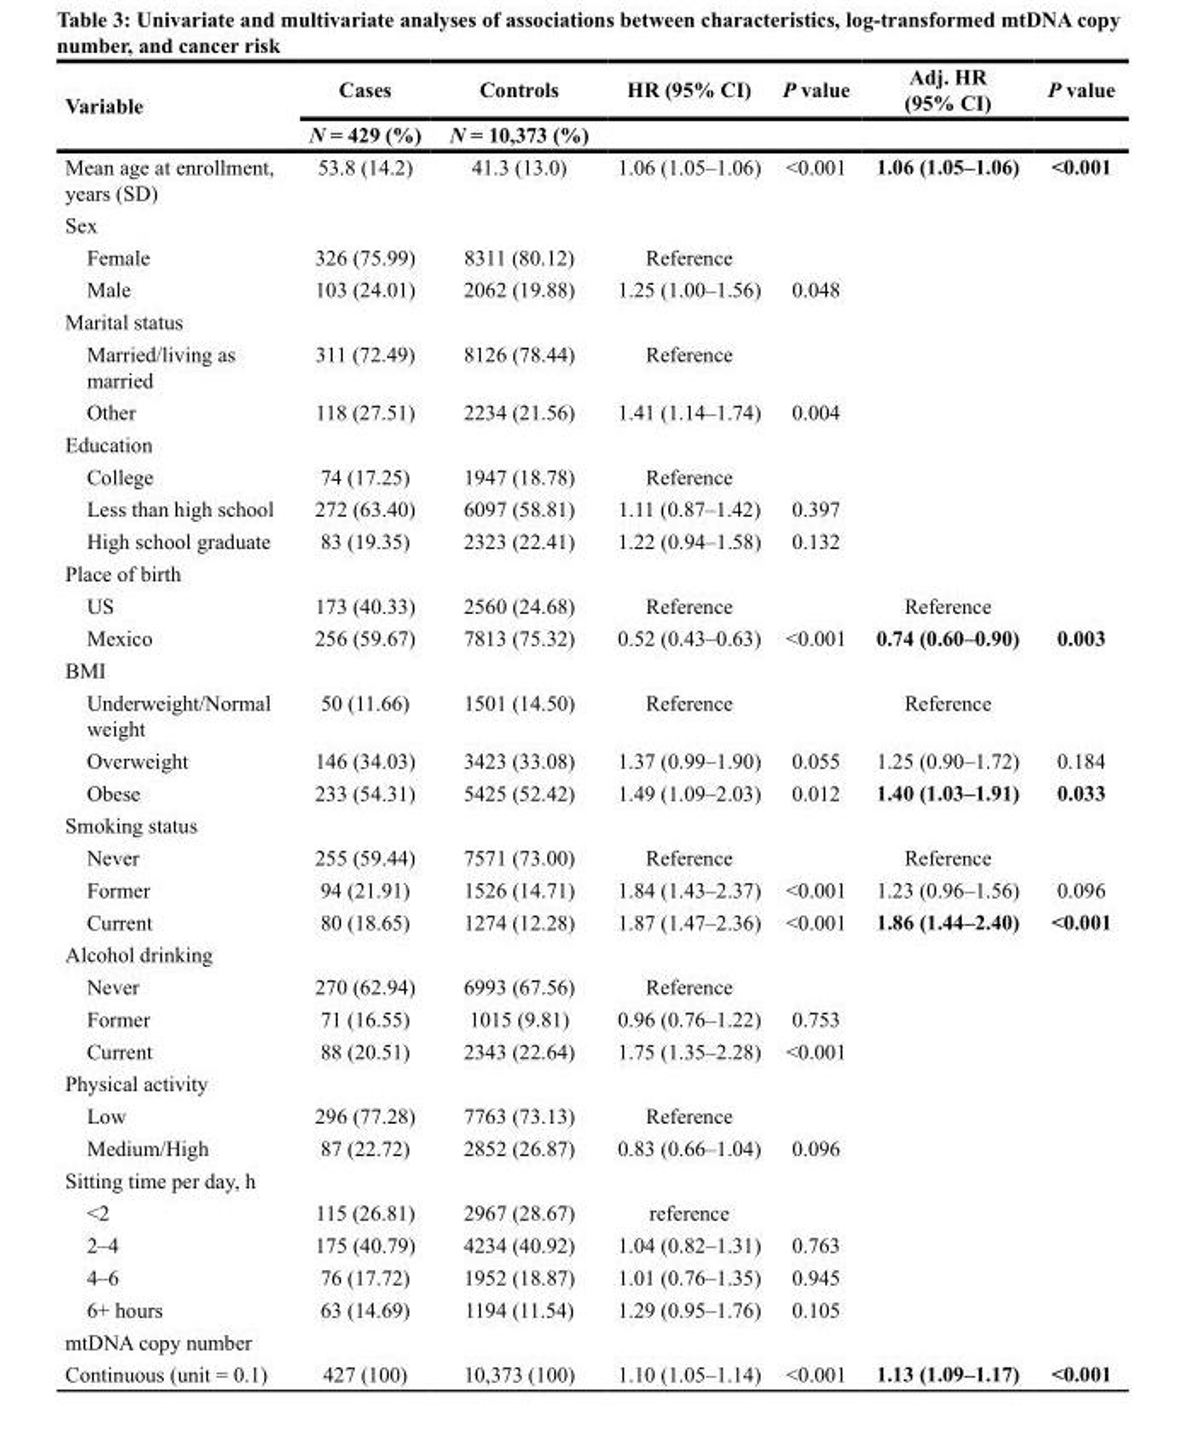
<table><thead><tr><td rowspan="2">Variable</td><td rowspan="2">Cases N = 429 (%)</td><td rowspan="2">Controls N = 10,373 (%)</td><td rowspan="2">HR (95% CI)</td><td rowspan="2">P value</td><td rowspan="2">Adj. HR (95% CI)</td><td rowspan="2">P value</td></tr><tr></tr></thead><tbody><tr><td>Mean age at enrollment, years (SD)</td><td>53.8 (14.2)</td><td>41.3 (13.0)</td><td>1.06 (1.05–1.06)</td><td>&lt;0.001</td><td>1.06 (1.05–1.06)</td><td>&lt;0.001</td></tr><tr><td colspan="7">Sex</td></tr><tr><td>Female</td><td>326 (75.99)</td><td>8311 (80.12)</td><td>Reference</td><td></td><td></td><td></td></tr><tr><td>Male</td><td>103 (24.01)</td><td>2062 (19.88)</td><td>1.25 (1.00–1.56)</td><td>0.048</td><td></td><td></td></tr><tr><td colspan="7">Marital status</td></tr><tr><td>Married/living as married</td><td>311 (72.49)</td><td>8126 (78.44)</td><td>Reference</td><td></td><td></td><td></td></tr><tr><td>Other</td><td>118 (27.51)</td><td>2234 (21.56)</td><td>1.41 (1.14–1.74)</td><td>0.004</td><td></td><td></td></tr><tr><td colspan="7">Education</td></tr><tr><td>College</td><td>74 (17.25)</td><td>1947 (18.78)</td><td>Reference</td><td></td><td></td><td></td></tr><tr><td>Less than high school</td><td>272 (63.40)</td><td>6097 (58.81)</td><td>1.11 (0.87–1.42)</td><td>0.397</td><td></td><td></td></tr><tr><td>High school graduate</td><td>83 (19.35)</td><td>2323 (22.41)</td><td>1.22 (0.94–1.58)</td><td>0.132</td><td></td><td></td></tr><tr><td colspan="7">Place of birth</td></tr><tr><td>US</td><td>173 (40.33)</td><td>2560 (24.68)</td><td>Reference</td><td></td><td>Reference</td><td></td></tr><tr><td>Mexico</td><td>256 (59.67)</td><td>7813 (75.32)</td><td>0.52 (0.43–0.63)</td><td>&lt;0.001</td><td>0.74 (0.60–0.90)</td><td>0.003</td></tr><tr><td colspan="7">BMI</td></tr><tr><td>Underweight/Normal weight</td><td>50 (11.66)</td><td>1501 (14.50)</td><td>Reference</td><td></td><td>Reference</td><td></td></tr><tr><td>Overweight</td><td>146 (34.03)</td><td>3423 (33.08)</td><td>1.37 (0.99–1.90)</td><td>0.055</td><td>1.25 (0.90–1.72)</td><td>0.184</td></tr><tr><td>Obese</td><td>233 (54.31)</td><td>5425 (52.42)</td><td>1.49 (1.09–2.03)</td><td>0.012</td><td>1.40 (1.03–1.91)</td><td>0.033</td></tr><tr><td colspan="7">Smoking status</td></tr><tr><td>Never</td><td>255 (59.44)</td><td>7571 (73.00)</td><td>Reference</td><td></td><td>Reference</td><td></td></tr><tr><td>Former</td><td>94 (21.91)</td><td>1526 (14.71)</td><td>1.84 (1.43–2.37)</td><td>&lt;0.001</td><td>1.23 (0.96–1.56)</td><td>0.096</td></tr><tr><td>Current</td><td>80 (18.65)</td><td>1274 (12.28)</td><td>1.87 (1.47–2.36)</td><td>&lt;0.001</td><td>1.86 (1.44–2.40)</td><td>&lt;0.001</td></tr><tr><td colspan="7">Alcohol drinking</td></tr><tr><td>Never</td><td>270 (62.94)</td><td>6993 (67.56)</td><td>Reference</td><td></td><td></td><td></td></tr><tr><td>Former</td><td>71 (16.55)</td><td>1015 (9.81)</td><td>0.96 (0.76–1.22)</td><td>0.753</td><td></td><td></td></tr><tr><td>Current</td><td>88 (20.51)</td><td>2343 (22.64)</td><td>1.75 (1.35–2.28)</td><td>&lt;0.001</td><td></td><td></td></tr><tr><td colspan="7">Physical activity</td></tr><tr><td>Low</td><td>296 (77.28)</td><td>7763 (73.13)</td><td>Reference</td><td></td><td></td><td></td></tr><tr><td>Medium/High</td><td>87 (22.72)</td><td>2852 (26.87)</td><td>0.83 (0.66–1.04)</td><td>0.096</td><td></td><td></td></tr><tr><td colspan="7">Sitting time per day, h</td></tr><tr><td>&lt;2</td><td>115 (26.81)</td><td>2967 (28.67)</td><td>reference</td><td></td><td></td><td></td></tr><tr><td>2–4</td><td>175 (40.79)</td><td>4234 (40.92)</td><td>1.04 (0.82–1.31)</td><td>0.763</td><td></td><td></td></tr><tr><td>4–6</td><td>76 (17.72)</td><td>1952 (18.87)</td><td>1.01 (0.76–1.35)</td><td>0.945</td><td></td><td></td></tr><tr><td>6+ hours</td><td>63 (14.69)</td><td>1194 (11.54)</td><td>1.29 (0.95–1.76)</td><td>0.105</td><td></td><td></td></tr><tr><td colspan="7">mtDNA copy number</td></tr><tr><td>Continuous (unit = 0.1)</td><td>427 (100)</td><td>10,373 (100)</td><td>1.10 (1.05–1.14)</td><td>&lt;0.001</td><td>1.13 (1.09–1.17)</td><td>&lt;0.001</td></tr></tbody></table>